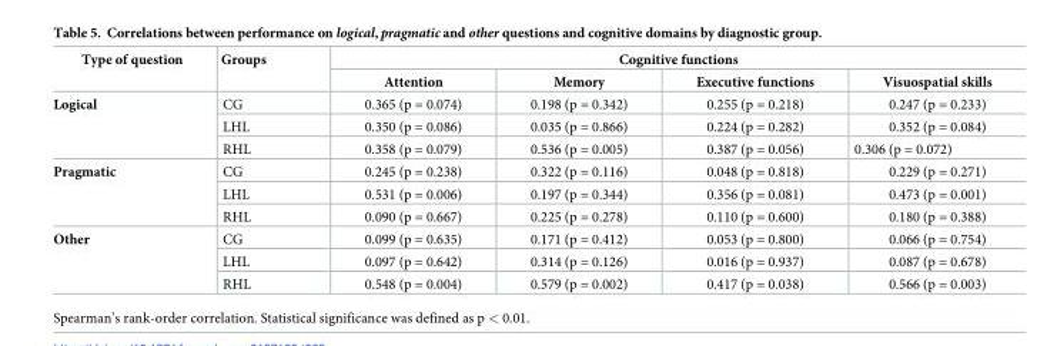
<table><thead><tr><td rowspan="2">Type of question</td><td rowspan="2">Groups</td><td colspan="4">Cognitive functions</td></tr><tr><td>Attention</td><td>Memory</td><td>Executive functions</td><td>Visuospatial skills</td></tr></thead><tbody><tr><td rowspan="3">Logical</td><td>CG</td><td>0.365 (p = 0.074)</td><td>0.198 (p = 0.342)</td><td>0.255 (p = 0.218)</td><td>0.247 (p = 0.233)</td></tr><tr><td>LHL</td><td>0.350 (p = 0.086)</td><td>0.035 (p = 0.866)</td><td>0.224 (p = 0.282)</td><td>0.352 (p = 0.084)</td></tr><tr><td>RHL</td><td>0.358 (p = 0.079)</td><td>0.536 (p = 0.005)</td><td>0.387 (p = 0.056)</td><td>0.306 (p = 0.072)</td></tr><tr><td rowspan="3">Pragmatic</td><td>CG</td><td>0.245 (p = 0.238)</td><td>0.322 (p = 0.116)</td><td>0.048 (p = 0.818)</td><td>0.229 (p = 0.271)</td></tr><tr><td>LHL</td><td>0.531 (p = 0.006)</td><td>0.197 (p = 0.344)</td><td>0.356 (p = 0.081)</td><td>0.473 (p = 0.001)</td></tr><tr><td>RHL</td><td>0.090 (p = 0.667)</td><td>0.225 (p = 0.278)</td><td>0.110 (p = 0.600)</td><td>0.180 (p = 0.388)</td></tr><tr><td rowspan="3">Other</td><td>CG</td><td>0.099 (p = 0.635)</td><td>0.171 (p = 0.412)</td><td>0.053 (p = 0.800)</td><td>0.066 (p = 0.754)</td></tr><tr><td>LHL</td><td>0.097 (p = 0.642)</td><td>0.314 (p = 0.126)</td><td>0.016 (p = 0.937)</td><td>0.087 (p = 0.678)</td></tr><tr><td>RHL</td><td>0.548 (p = 0.004)</td><td>0.579 (p = 0.002)</td><td>0.417 (p = 0.038)</td><td>0.566 (p = 0.003)</td></tr></tbody></table>